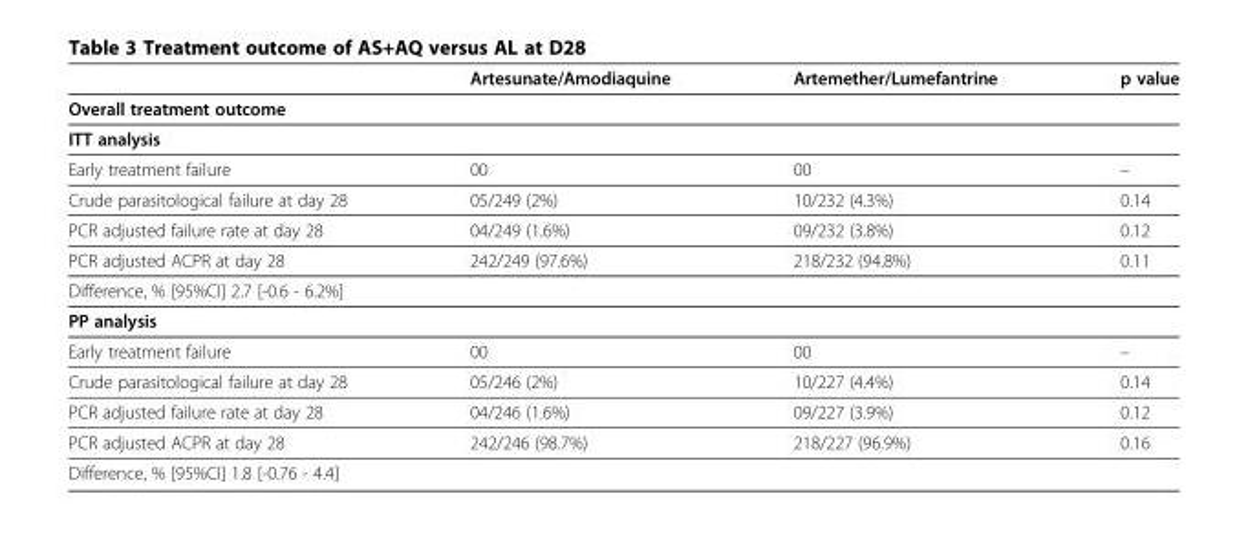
<table><thead><tr><td></td><td>Artesunate/Amodiaquine</td><td>Artemether/Lumefantrine</td><td>p value</td></tr></thead><tbody><tr><td colspan="4">Overall treatment outcome</td></tr><tr><td colspan="4">ITT analysis</td></tr><tr><td>Early treatment failure</td><td>00</td><td>00</td><td>–</td></tr><tr><td>Crude parasitological failure at day 28</td><td>05/249 (2%)</td><td>10/232 (4.3%)</td><td>0.14</td></tr><tr><td>PCR adjusted failure rate at day 28</td><td>04/249 (1.6%)</td><td>09/232 (3.8%)</td><td>0.12</td></tr><tr><td>PCR adjusted ACPR at day 28</td><td>242/249 (97.6%)</td><td>218/232 (94.8%)</td><td>0.11</td></tr><tr><td colspan="4">Difference, % [95%CI] 2.7 [-0.6 - 6.2%]</td></tr><tr><td colspan="4">PP analysis</td></tr><tr><td>Early treatment failure</td><td>00</td><td>00</td><td>–</td></tr><tr><td>Crude parasitological failure at day 28</td><td>05/246 (2%)</td><td>10/227 (4.4%)</td><td>0.14</td></tr><tr><td>PCR adjusted failure rate at day 28</td><td>04/246 (1.6%)</td><td>09/227 (3.9%)</td><td>0.12</td></tr><tr><td>PCR adjusted ACPR at day 28</td><td>242/246 (98.7%)</td><td>218/227 (96.9%)</td><td>0.16</td></tr><tr><td colspan="4">Difference, % [95%CI] 1.8 [-0.76 - 4.4]</td></tr></tbody></table>